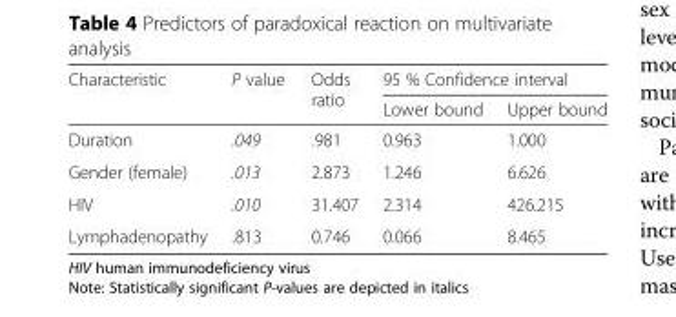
<table><thead><tr><td rowspan="2">Characteristic</td><td rowspan="2">P value</td><td rowspan="2">Odds ratio</td><td colspan="2">95 % Confidence interval</td></tr><tr><td>Lower bound</td><td>Upper bound</td></tr></thead><tbody><tr><td>Duration</td><td>.049</td><td>.981</td><td>0.963</td><td>1.000</td></tr><tr><td>Gender (female)</td><td>.013</td><td>2.873</td><td>1.246</td><td>6.626</td></tr><tr><td>HIV</td><td>.010</td><td>31.407</td><td>2.314</td><td>426.215</td></tr><tr><td>Lymphadenopathy</td><td>.813</td><td>0.746</td><td>0.066</td><td>8.465</td></tr></tbody></table>